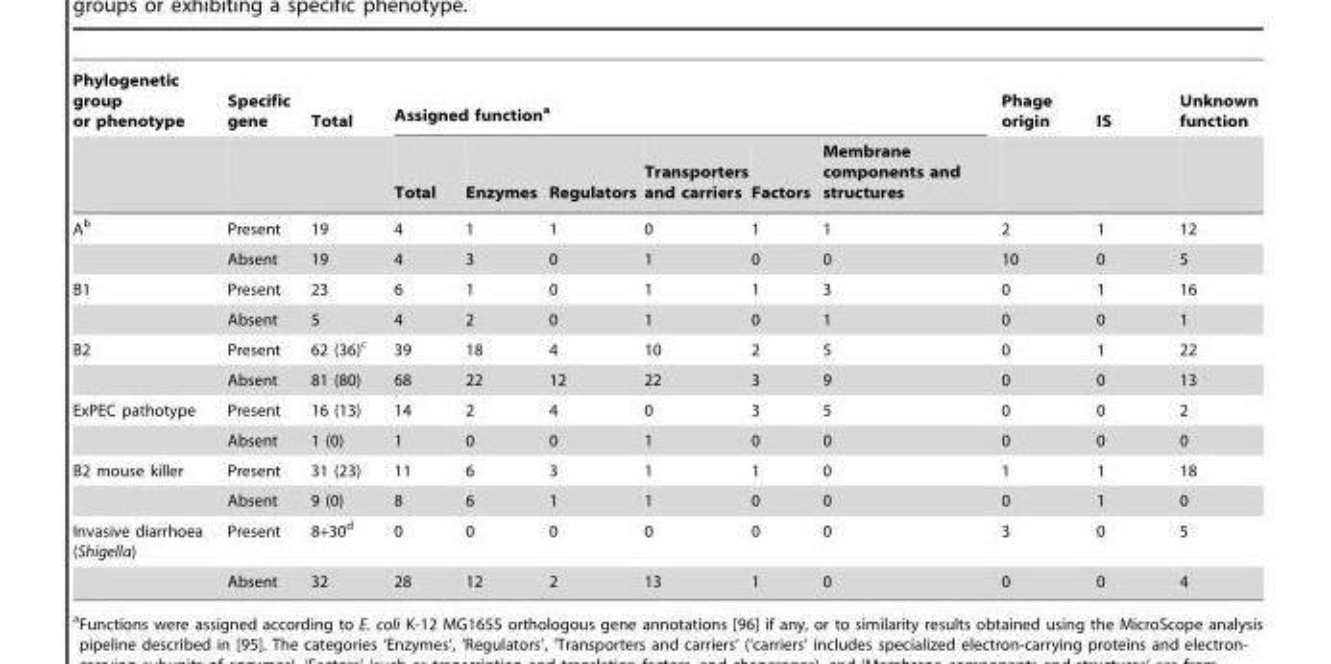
<table><thead><tr><td rowspan="2">Phylogenetic group or phenotype</td><td rowspan="2">Specific gene</td><td rowspan="2">Total</td><td colspan="6">Assigned function<sup>a</sup></td><td rowspan="2">Phage origin</td><td rowspan="2">IS</td><td rowspan="2">Unknown function</td></tr><tr><td>Total</td><td>Enzymes</td><td>Regulators</td><td>Transporters and carriers</td><td>Factors</td><td>Membrane components and structures</td></tr></thead><tbody><tr><td rowspan="2">A<sup>b</sup></td><td>Present</td><td>19</td><td>4</td><td>1</td><td>1</td><td>0</td><td>1</td><td>1</td><td>2</td><td>1</td><td>12</td></tr><tr><td>Absent</td><td>19</td><td>4</td><td>3</td><td>0</td><td>1</td><td>0</td><td>0</td><td>10</td><td>0</td><td>5</td></tr><tr><td rowspan="2">B1</td><td>Present</td><td>23</td><td>6</td><td>1</td><td>0</td><td>1</td><td>1</td><td>3</td><td>0</td><td>1</td><td>16</td></tr><tr><td>Absent</td><td>5</td><td>4</td><td>2</td><td>0</td><td>1</td><td>0</td><td>1</td><td>0</td><td>0</td><td>1</td></tr><tr><td rowspan="2">B2</td><td>Present</td><td>62 (36)<sup>c</sup></td><td>39</td><td>18</td><td>4</td><td>10</td><td>2</td><td>5</td><td>0</td><td>1</td><td>22</td></tr><tr><td>Absent</td><td>81 (80)</td><td>68</td><td>22</td><td>12</td><td>22</td><td>3</td><td>9</td><td>0</td><td>0</td><td>13</td></tr><tr><td rowspan="2">ExPEC pathotype</td><td>Present</td><td>16 (13)</td><td>14</td><td>2</td><td>4</td><td>0</td><td>3</td><td>5</td><td>0</td><td>0</td><td>2</td></tr><tr><td>Absent</td><td>1 (0)</td><td>1</td><td>0</td><td>0</td><td>1</td><td>0</td><td>0</td><td>0</td><td>0</td><td>0</td></tr><tr><td rowspan="2">B2 mouse killer</td><td>Present</td><td>31 (23)</td><td>11</td><td>6</td><td>3</td><td>1</td><td>1</td><td>0</td><td>1</td><td>1</td><td>18</td></tr><tr><td>Absent</td><td>9 (0)</td><td>8</td><td>6</td><td>1</td><td>1</td><td>0</td><td>0</td><td>0</td><td>1</td><td>0</td></tr><tr><td rowspan="2">Invasive diarrhoea (Shigella)</td><td>Present</td><td>8+30<sup>d</sup></td><td>0</td><td>0</td><td>0</td><td>0</td><td>0</td><td>0</td><td>3</td><td>0</td><td>5</td></tr><tr><td>Absent</td><td>32</td><td>28</td><td>12</td><td>2</td><td>13</td><td>1</td><td>0</td><td>0</td><td>0</td><td>4</td></tr></tbody></table>